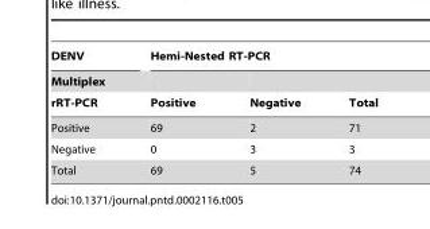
<table><thead><tr><td rowspan="3">DENV Multiplex rRT-PCR</td><td colspan="3">Hemi-Nested RT-PCR</td></tr><tr><td rowspan="2">Positive</td><td rowspan="2">Negative</td><td rowspan="2">Total</td></tr><tr></tr></thead><tbody><tr><td>Positive</td><td>69</td><td>2</td><td>71</td></tr><tr><td>Negative</td><td>0</td><td>3</td><td>3</td></tr><tr><td>Total</td><td>69</td><td>5</td><td>74</td></tr></tbody></table>